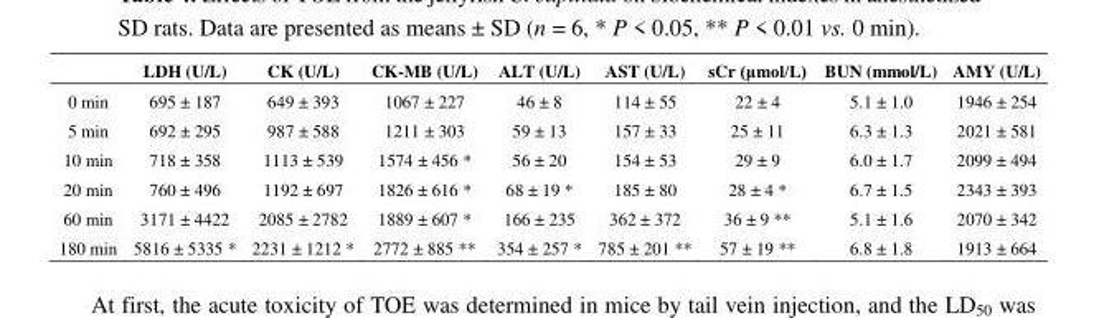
<table><thead><tr><td></td><td>LDH (U/L)</td><td>CK (U/L)</td><td>CK-MB (U/L)</td><td>ALT (U/L)</td><td>AST (U/L)</td><td>sCr (μmol/L)</td><td>BUN (mmol/L)</td><td>AMY (U/L)</td></tr></thead><tbody><tr><td>0 min</td><td>695 ± 187</td><td>649 ± 393</td><td>1067 ± 227</td><td>46 ± 8</td><td>114 ± 55</td><td>22 ± 4</td><td>5.1 ± 1.0</td><td>1946 ± 254</td></tr><tr><td>5 min</td><td>692 ± 295</td><td>987 ± 588</td><td>1211 ± 303</td><td>59 ± 13</td><td>157 ± 33</td><td>25 ± 11</td><td>6.3 ± 1.3</td><td>2021 ± 581</td></tr><tr><td>10 min</td><td>718 ± 358</td><td>1113 ± 539</td><td>1574 ± 456 *</td><td>56 ± 20</td><td>154 ± 53</td><td>29 ± 9</td><td>6.0 ± 1.7</td><td>2099 ± 494</td></tr><tr><td>20 min</td><td>760 ± 496</td><td>1192 ± 697</td><td>1826 ± 616 *</td><td>68 ± 19 *</td><td>185 ± 80</td><td>28 ± 4 *</td><td>6.7 ± 1.5</td><td>2343 ± 393</td></tr><tr><td>60 min</td><td>3171 ± 4422</td><td>2085 ± 2782</td><td>1889 ± 607 *</td><td>166 ± 235</td><td>362 ± 372</td><td>36 ± 9 **</td><td>5.1 ± 1.6</td><td>2070 ± 342</td></tr><tr><td>180 min</td><td>5816 ± 5335 *</td><td>2231 ± 1212 *</td><td>2772 ± 885 **</td><td>354 ± 257 *</td><td>785 ± 201 **</td><td>57 ± 19 **</td><td>6.8 ± 1.8</td><td>1913 ± 664</td></tr></tbody></table>